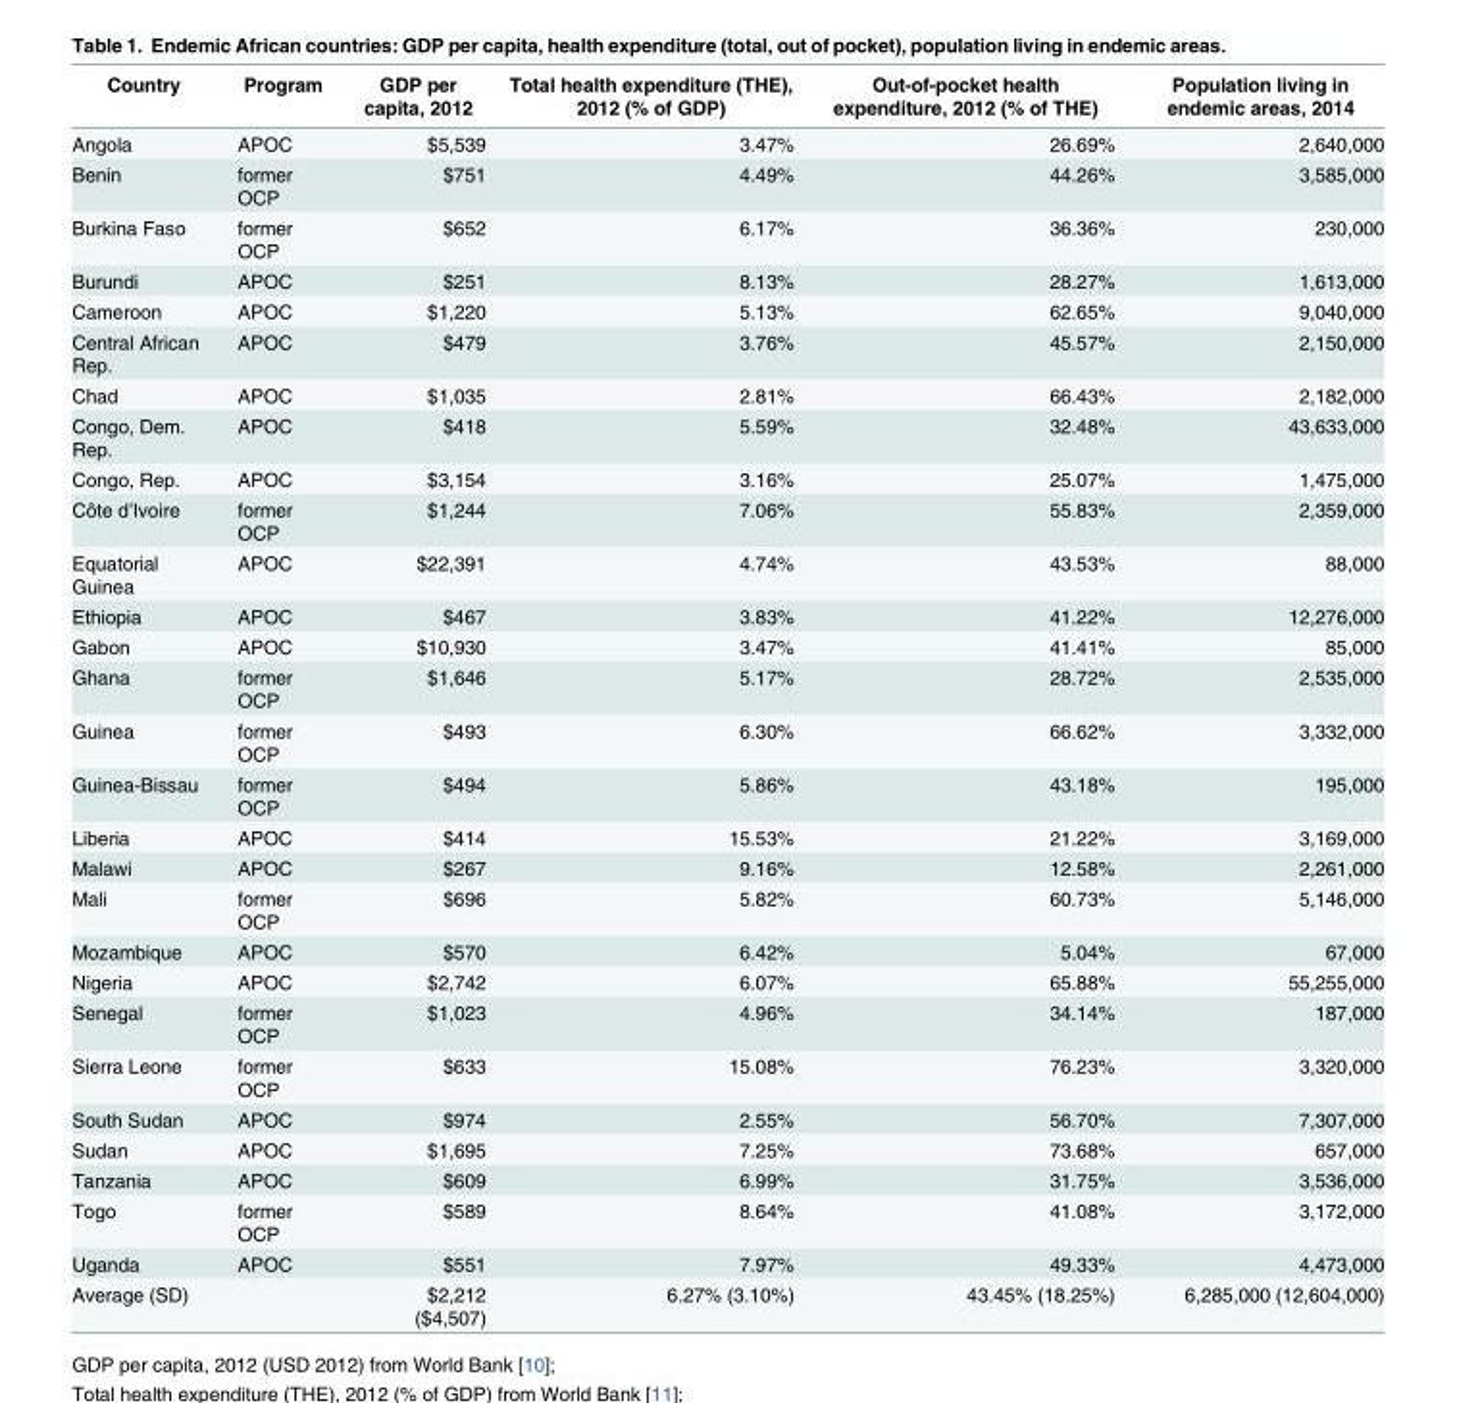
<table><thead><tr><td>Country</td><td>Program</td><td>GDP per capita, 2012</td><td>Total health expenditure (THE), 2012 (% of GDP)</td><td>Out-of-pocket health expenditure, 2012 (% of THE)</td><td>Population living in endemic areas, 2014</td></tr></thead><tbody><tr><td>Angola</td><td>APOC</td><td>$5,539</td><td>3.47%</td><td>26.69%</td><td>2,640,000</td></tr><tr><td>Benin</td><td>former OCP</td><td>$751</td><td>4.49%</td><td>44.26%</td><td>3,585,000</td></tr><tr><td>Burkina Faso</td><td>former OCP</td><td>$652</td><td>6.17%</td><td>36.36%</td><td>230,000</td></tr><tr><td>Burundi</td><td>APOC</td><td>$251</td><td>8.13%</td><td>28.27%</td><td>1,613,000</td></tr><tr><td>Cameroon</td><td>APOC</td><td>$1,220</td><td>5.13%</td><td>62.65%</td><td>9,040,000</td></tr><tr><td>Central African Rep.</td><td>APOC</td><td>$479</td><td>3.76%</td><td>45.57%</td><td>2,150,000</td></tr><tr><td>Chad</td><td>APOC</td><td>$1,035</td><td>2.81%</td><td>66.43%</td><td>2,182,000</td></tr><tr><td>Congo, Dem. Rep.</td><td>APOC</td><td>$418</td><td>5.59%</td><td>32.48%</td><td>43,633,000</td></tr><tr><td>Congo, Rep.</td><td>APOC</td><td>$3,154</td><td>3.16%</td><td>25.07%</td><td>1,475,000</td></tr><tr><td>Côte d’Ivoire</td><td>former OCP</td><td>$1,244</td><td>7.06%</td><td>55.83%</td><td>2,359,000</td></tr><tr><td>Equatorial Guinea</td><td>APOC</td><td>$22,391</td><td>4.74%</td><td>43.53%</td><td>88,000</td></tr><tr><td>Ethiopia</td><td>APOC</td><td>$467</td><td>3.83%</td><td>41.22%</td><td>12,276,000</td></tr><tr><td>Gabon</td><td>APOC</td><td>$10,930</td><td>3.47%</td><td>41.41%</td><td>85,000</td></tr><tr><td>Ghana</td><td>former OCP</td><td>$1,646</td><td>5.17%</td><td>28.72%</td><td>2,535,000</td></tr><tr><td>Guinea</td><td>former OCP</td><td>$493</td><td>6.30%</td><td>66.62%</td><td>3,332,000</td></tr><tr><td>Guinea-Bissau</td><td>former OCP</td><td>$494</td><td>5.86%</td><td>43.18%</td><td>195,000</td></tr><tr><td>Liberia</td><td>APOC</td><td>$414</td><td>15.53%</td><td>21.22%</td><td>3,169,000</td></tr><tr><td>Malawi</td><td>APOC</td><td>$267</td><td>9.16%</td><td>12.58%</td><td>2,261,000</td></tr><tr><td>Mali</td><td>former OCP</td><td>$696</td><td>5.82%</td><td>60.73%</td><td>5,146,000</td></tr><tr><td>Mozambique</td><td>APOC</td><td>$570</td><td>6.42%</td><td>5.04%</td><td>67,000</td></tr><tr><td>Nigeria</td><td>APOC</td><td>$2,742</td><td>6.07%</td><td>65.88%</td><td>55,255,000</td></tr><tr><td>Senegal</td><td>former OCP</td><td>$1,023</td><td>4.96%</td><td>34.14%</td><td>187,000</td></tr><tr><td>Sierra Leone</td><td>former OCP</td><td>$633</td><td>15.08%</td><td>76.23%</td><td>3,320,000</td></tr><tr><td>South Sudan</td><td>APOC</td><td>$974</td><td>2.55%</td><td>56.70%</td><td>7,307,000</td></tr><tr><td>Sudan</td><td>APOC</td><td>$1,695</td><td>7.25%</td><td>73.68%</td><td>657,000</td></tr><tr><td>Tanzania</td><td>APOC</td><td>$609</td><td>6.99%</td><td>31.75%</td><td>3,536,000</td></tr><tr><td>Togo</td><td>former OCP</td><td>$589</td><td>8.64%</td><td>41.08%</td><td>3,172,000</td></tr><tr><td>Uganda</td><td>APOC</td><td>$551</td><td>7.97%</td><td>49.33%</td><td>4,473,000</td></tr><tr><td>Average (SD)</td><td></td><td>$2,212 ($4,507)</td><td>6.27% (3.10%)</td><td>43.45% (18.25%)</td><td>6,285,000 (12,604,000)</td></tr></tbody></table>